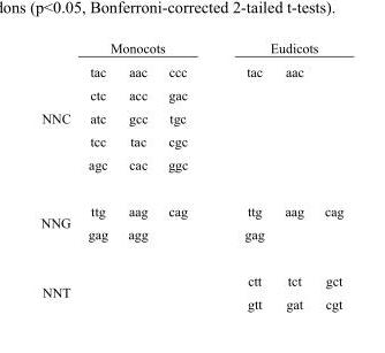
<table><thead><tr><td rowspan="2"></td><td colspan="3">Monocots</td><td colspan="3">Eudicots</td></tr><tr><td>tac</td><td>aac</td><td>ccc</td><td>tac</td><td>aac</td><td></td></tr></thead><tbody><tr><td></td><td>ctc</td><td>acc</td><td>gac</td><td></td><td></td><td></td></tr><tr><td rowspan="3">NNC</td><td>atc</td><td>gcc</td><td>tgc</td><td></td><td></td><td></td></tr><tr><td>tcc</td><td>tac</td><td>cgc</td><td></td><td></td><td></td></tr><tr><td>agc</td><td>cac</td><td>ggc</td><td></td><td></td><td></td></tr><tr><td rowspan="2">NNG</td><td>ttg</td><td>aag</td><td>cag</td><td>ttg</td><td>aag</td><td>cag</td></tr><tr><td>gag</td><td>agg</td><td></td><td>gag</td><td></td><td></td></tr><tr><td rowspan="2">NNT</td><td></td><td></td><td></td><td>ctt</td><td>tct</td><td>gct</td></tr><tr><td></td><td></td><td></td><td>gtt</td><td>gat</td><td>cgt</td></tr></tbody></table>